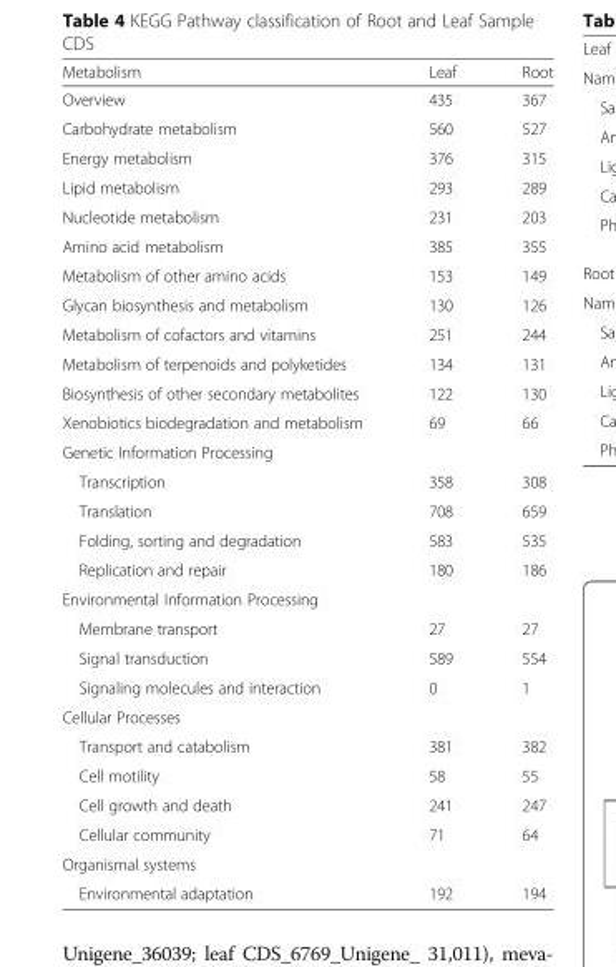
<table><thead><tr><td>Metabolism</td><td>Leaf</td><td>Root</td></tr></thead><tbody><tr><td>Overview</td><td>435</td><td>367</td></tr><tr><td>Carbohydrate metabolism</td><td>560</td><td>527</td></tr><tr><td>Energy metabolism</td><td>376</td><td>315</td></tr><tr><td>Lipid metabolism</td><td>293</td><td>289</td></tr><tr><td>Nucleotide metabolism</td><td>231</td><td>203</td></tr><tr><td>Amino acid metabolism</td><td>385</td><td>355</td></tr><tr><td>Metabolism of other amino acids</td><td>153</td><td>149</td></tr><tr><td>Glycan biosynthesis and metabolism</td><td>130</td><td>126</td></tr><tr><td>Metabolism of cofactors and vitamins</td><td>251</td><td>244</td></tr><tr><td>Metabolism of terpenoids and polyketides</td><td>134</td><td>131</td></tr><tr><td>Biosynthesis of other secondary metabolites</td><td>122</td><td>130</td></tr><tr><td>Xenobiotics biodegradation and metabolism</td><td>69</td><td>66</td></tr><tr><td colspan="3">Genetic Information Processing</td></tr><tr><td>Transcription</td><td>358</td><td>308</td></tr><tr><td>Translation</td><td>708</td><td>659</td></tr><tr><td>Folding, sorting and degradation</td><td>583</td><td>535</td></tr><tr><td>Replication and repair</td><td>180</td><td>186</td></tr><tr><td colspan="3">Environmental Information Processing</td></tr><tr><td>Membrane transport</td><td>27</td><td>27</td></tr><tr><td>Signal transduction</td><td>589</td><td>554</td></tr><tr><td>Signaling molecules and interaction</td><td>0</td><td>1</td></tr><tr><td colspan="3">Cellular Processes</td></tr><tr><td>Transport and catabolism</td><td>381</td><td>382</td></tr><tr><td>Cell motility</td><td>58</td><td>55</td></tr><tr><td>Cell growth and death</td><td>241</td><td>247</td></tr><tr><td>Cellular community</td><td>71</td><td>64</td></tr><tr><td colspan="3">Organismal systems</td></tr><tr><td>Environmental adaptation</td><td>192</td><td>194</td></tr></tbody></table>